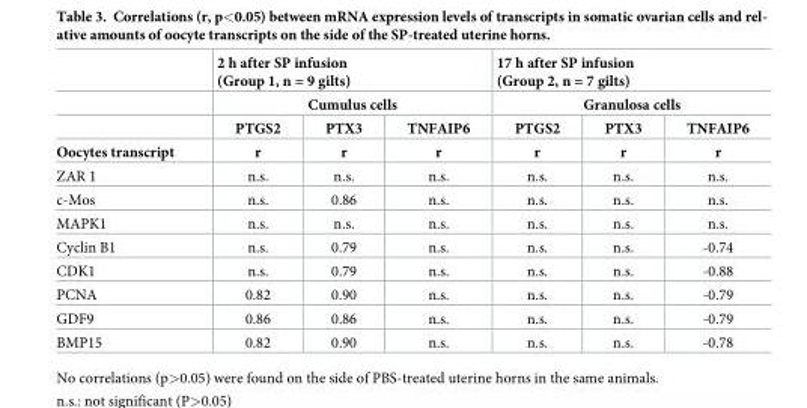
<table><thead><tr><td rowspan="4">Oocytes transcript</td><td rowspan="2" colspan="3">2 h after SP infusion (Group 1, n = 9 gilts) Cumulus cells</td><td rowspan="2" colspan="3">17 h after SP infusion (Group 2, n = 7 gilts) Granulosa cells</td></tr><tr></tr><tr><td rowspan="2">PTGS2 r</td><td rowspan="2">PTX3 r</td><td rowspan="2">TNFAIP6 r</td><td rowspan="2">PTGS2 r</td><td rowspan="2">PTX3 r</td><td rowspan="2">TNFAIP6 r</td></tr><tr></tr></thead><tbody><tr><td>ZAR 1</td><td>n.s.</td><td>n.s.</td><td>n.s.</td><td>n.s.</td><td>n.s.</td><td>n.s.</td></tr><tr><td>c-Mos</td><td>n.s.</td><td>0.86</td><td>n.s.</td><td>n.s.</td><td>n.s.</td><td>n.s.</td></tr><tr><td>MAPK1</td><td>n.s.</td><td>n.s.</td><td>n.s.</td><td>n.s.</td><td>n.s.</td><td>n.s.</td></tr><tr><td>Cyclin B1</td><td>n.s.</td><td>0.79</td><td>n.s.</td><td>n.s.</td><td>n.s.</td><td>-0.74</td></tr><tr><td>CDK1</td><td>n.s.</td><td>0.79</td><td>n.s.</td><td>n.s.</td><td>n.s.</td><td>-0.88</td></tr><tr><td>PCNA</td><td>0.82</td><td>0.90</td><td>n.s.</td><td>n.s.</td><td>n.s.</td><td>-0.79</td></tr><tr><td>GDF9</td><td>0.86</td><td>0.86</td><td>n.s.</td><td>n.s.</td><td>n.s.</td><td>-0.79</td></tr><tr><td>BMP15</td><td>0.82</td><td>0.90</td><td>n.s.</td><td>n.s.</td><td>n.s.</td><td>-0.78</td></tr></tbody></table>